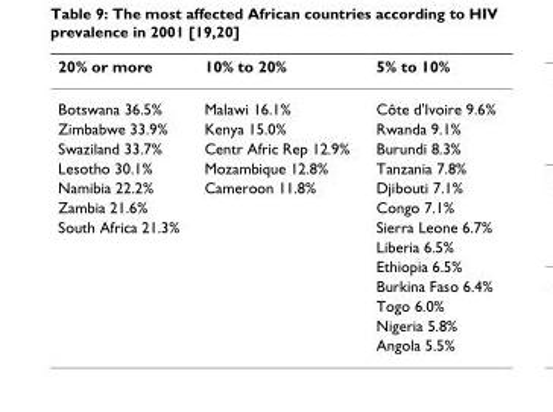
<table><thead><tr><td>20% or more</td><td>10% to 20%</td><td>5% to 10%</td></tr></thead><tbody><tr><td>Botswana 36.5%</td><td>Malawi 16.1%</td><td>Côte d&#x27;Ivoire 9.6%</td></tr><tr><td>Zimbabwe 33.9%</td><td>Kenya 15.0%</td><td>Rwanda 9.1%</td></tr><tr><td>Swaziland 33.7%</td><td>Centr Afric Rep 12.9%</td><td>Burundi 8.3%</td></tr><tr><td>Lesotho 30.1%</td><td>Mozambique 12.8%</td><td>Tanzania 7.8%</td></tr><tr><td>Namibia 22.2%</td><td>Cameroon 11.8%</td><td>Djibouti 7.1%</td></tr><tr><td>Zambia 21.6%</td><td></td><td>Congo 7.1%</td></tr><tr><td rowspan="7">South Africa 21.3%</td><td></td><td>Sierra Leone 6.7%</td></tr><tr><td></td><td>Liberia 6.5%</td></tr><tr><td></td><td>Ethiopia 6.5%</td></tr><tr><td></td><td>Burkina Faso 6.4%</td></tr><tr><td></td><td>Togo 6.0%</td></tr><tr><td></td><td>Nigeria 5.8%</td></tr><tr><td></td><td>Angola 5.5%</td></tr></tbody></table>